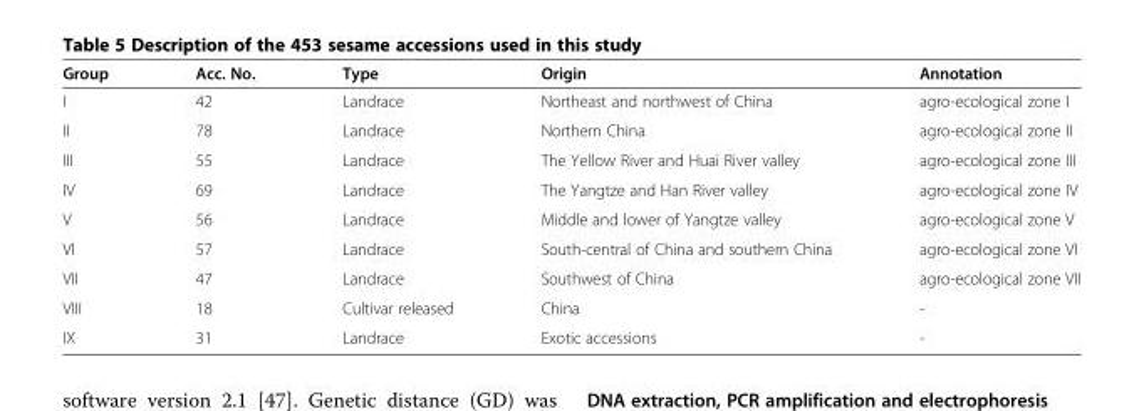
<table><thead><tr><td>Group</td><td>Acc. No.</td><td>Type</td><td>Origin</td><td>Annotation</td></tr></thead><tbody><tr><td>I</td><td>42</td><td>Landrace</td><td>Northeast and northwest of China</td><td>agro-ecological zone I</td></tr><tr><td>II</td><td>78</td><td>Landrace</td><td>Northern China</td><td>agro-ecological zone II</td></tr><tr><td>III</td><td>55</td><td>Landrace</td><td>The Yellow River and Huai River valley</td><td>agro-ecological zone III</td></tr><tr><td>IV</td><td>69</td><td>Landrace</td><td>The Yangtze and Han River valley</td><td>agro-ecological zone IV</td></tr><tr><td>V</td><td>56</td><td>Landrace</td><td>Middle and lower of Yangtze valley</td><td>agro-ecological zone V</td></tr><tr><td>VI</td><td>57</td><td>Landrace</td><td>South-central of China and southern China</td><td>agro-ecological zone VI</td></tr><tr><td>VII</td><td>47</td><td>Landrace</td><td>Southwest of China</td><td>agro-ecological zone VII</td></tr><tr><td>VIII</td><td>18</td><td>Cultivar released</td><td>China</td><td>-</td></tr><tr><td>IX</td><td>31</td><td>Landrace</td><td>Exotic accessions</td><td>-</td></tr></tbody></table>